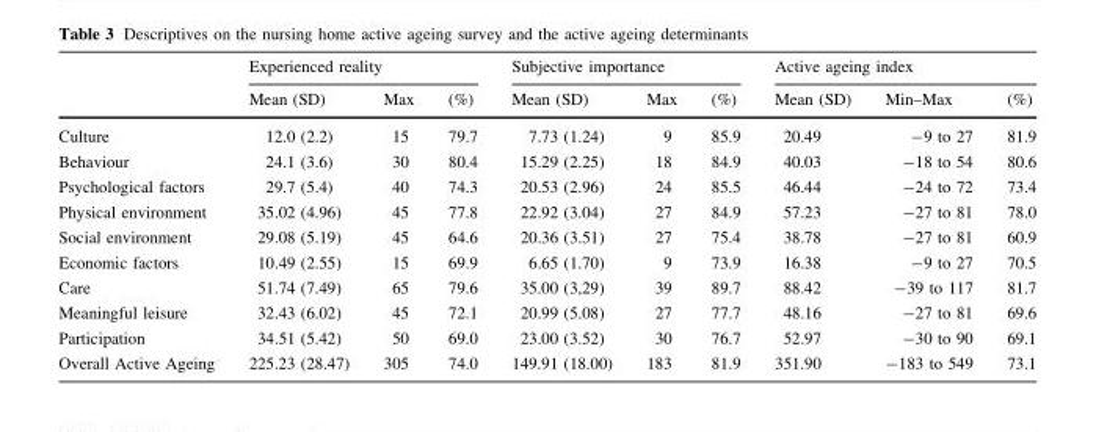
<table><thead><tr><td rowspan="2"></td><td colspan="3">Experienced reality</td><td colspan="3">Subjective importance</td><td colspan="3">Active ageing index</td></tr><tr><td>Mean (SD)</td><td>Max</td><td>(%)</td><td>Mean (SD)</td><td>Max</td><td>(%)</td><td>Mean (SD)</td><td>Min–Max</td><td>(%)</td></tr></thead><tbody><tr><td>Culture</td><td>12.0 (2.2)</td><td>15</td><td>79.7</td><td>7.73 (1.24)</td><td>9</td><td>85.9</td><td>20.49</td><td>-9 to 27</td><td>81.9</td></tr><tr><td>Behaviour</td><td>24.1 (3.6)</td><td>30</td><td>80.4</td><td>15.29 (2.25)</td><td>18</td><td>84.9</td><td>40.03</td><td>-18 to 54</td><td>80.6</td></tr><tr><td>Psychological factors</td><td>29.7 (5.4)</td><td>40</td><td>74.3</td><td>20.53 (2.96)</td><td>24</td><td>85.5</td><td>46.44</td><td>-24 to 72</td><td>73.4</td></tr><tr><td>Physical environment</td><td>35.02 (4.96)</td><td>45</td><td>77.8</td><td>22.92 (3.04)</td><td>27</td><td>84.9</td><td>57.23</td><td>-27 to 81</td><td>78.0</td></tr><tr><td>Social environment</td><td>29.08 (5.19)</td><td>45</td><td>64.6</td><td>20.36 (3.51)</td><td>27</td><td>75.4</td><td>38.78</td><td>-27 to 81</td><td>60.9</td></tr><tr><td>Economic factors</td><td>10.49 (2.55)</td><td>15</td><td>69.9</td><td>6.65 (1.70)</td><td>9</td><td>73.9</td><td>16.38</td><td>-9 to 27</td><td>70.5</td></tr><tr><td>Care</td><td>51.74 (7.49)</td><td>65</td><td>79.6</td><td>35.00 (3,29)</td><td>39</td><td>89.7</td><td>88.42</td><td>-39 to 117</td><td>81.7</td></tr><tr><td>Meaningful leisure</td><td>32.43 (6.02)</td><td>45</td><td>72.1</td><td>20.99 (5.08)</td><td>27</td><td>77.7</td><td>48.16</td><td>-27 to 81</td><td>69.6</td></tr><tr><td>Participation</td><td>34.51 (5.42)</td><td>50</td><td>69.0</td><td>23.00 (3.52)</td><td>30</td><td>76.7</td><td>52.97</td><td>-30 to 90</td><td>69.1</td></tr><tr><td>Overall Active Ageing</td><td>225.23 (28.47)</td><td>305</td><td>74.0</td><td>149.91 (18.00)</td><td>183</td><td>81.9</td><td>351.90</td><td>-183 to 549</td><td>73.1</td></tr></tbody></table>